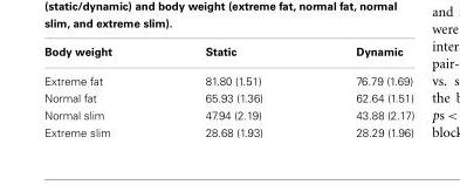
<table><thead><tr><td>Body weight</td><td>Static</td><td>Dynamic</td></tr></thead><tbody><tr><td>Extreme fat</td><td>81.80 (1.51)</td><td>76.79 (1.69)</td></tr><tr><td>Normal fat</td><td>65.93 (1.36)</td><td>62.64 (1.51)</td></tr><tr><td>Normal slim</td><td>47.94 (2.19)</td><td>43.88 (2.17)</td></tr><tr><td>Extreme slim</td><td>28.68 (1.93)</td><td>28.29 (1.96)</td></tr></tbody></table>